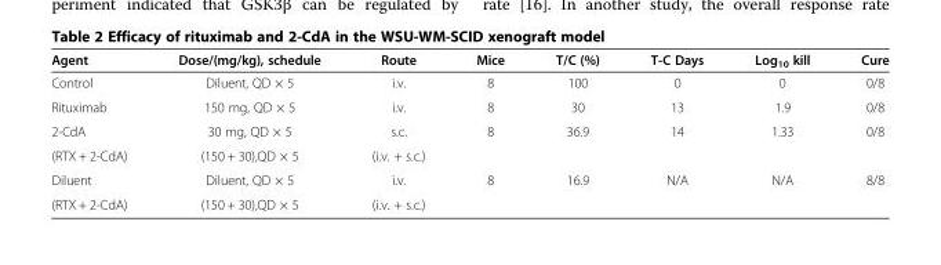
<table><thead><tr><td>Agent</td><td>Dose/(mg/kg), schedule</td><td>Route</td><td>Mice</td><td>T/C (%)</td><td>T-C Days</td><td>Log<sub>10</sub> kill</td><td>Cure</td></tr></thead><tbody><tr><td>Control</td><td>Diluent, QD × 5</td><td>i.v.</td><td>8</td><td>100</td><td>0</td><td>0</td><td>0/8</td></tr><tr><td>Rituximab</td><td>150 mg, QD × 5</td><td>i.v.</td><td>8</td><td>30</td><td>13</td><td>1.9</td><td>0/8</td></tr><tr><td>2-CdA</td><td>30 mg, QD × 5</td><td>s.c.</td><td>8</td><td>36.9</td><td>14</td><td>1.33</td><td>0/8</td></tr><tr><td>(RTX + 2-CdA)</td><td>(150 + 30),QD × 5</td><td>(i.v. + s.c.)</td><td></td><td></td><td></td><td></td><td></td></tr><tr><td>Diluent</td><td>Diluent, QD × 5</td><td>i.v.</td><td>8</td><td>16.9</td><td>N/A</td><td>N/A</td><td>8/8</td></tr><tr><td>(RTX + 2-CdA)</td><td>(150 + 30),QD × 5</td><td>(i.v. + s.c.)</td><td></td><td></td><td></td><td></td><td></td></tr></tbody></table>